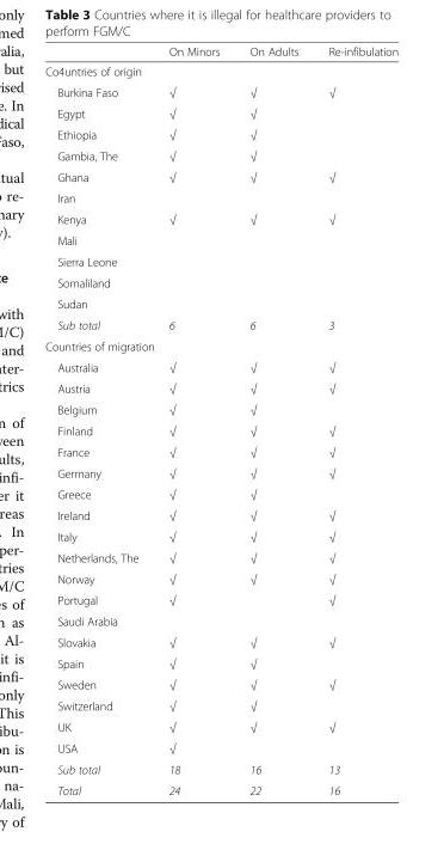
<table><thead><tr><td></td><td>On Minors</td><td>On Adults</td><td>Re-infibulation</td></tr></thead><tbody><tr><td colspan="4">Co4untries of origin</td></tr><tr><td>Burkina Faso</td><td>√</td><td>√</td><td>√</td></tr><tr><td>Egypt</td><td>√</td><td>√</td><td></td></tr><tr><td>Ethiopia</td><td>√</td><td>√</td><td></td></tr><tr><td>Gambia, The</td><td>√</td><td>√</td><td></td></tr><tr><td>Ghana</td><td>√</td><td>√</td><td>√</td></tr><tr><td colspan="4">Iran</td></tr><tr><td>Kenya</td><td>√</td><td>√</td><td>√</td></tr><tr><td colspan="4">Mali</td></tr><tr><td colspan="4">Sierra Leone</td></tr><tr><td colspan="4">Somaliland</td></tr><tr><td colspan="4">Sudan</td></tr><tr><td>Sub total</td><td>6</td><td>6</td><td>3</td></tr><tr><td colspan="4">Countries of migration</td></tr><tr><td>Australia</td><td>√</td><td>√</td><td>√</td></tr><tr><td>Austria</td><td>√</td><td>√</td><td>√</td></tr><tr><td>Belgium</td><td>√</td><td>√</td><td></td></tr><tr><td>Finland</td><td>√</td><td>√</td><td>√</td></tr><tr><td>France</td><td>√</td><td>√</td><td>√</td></tr><tr><td>Germany</td><td>√</td><td>√</td><td>√</td></tr><tr><td>Greece</td><td>√</td><td>√</td><td></td></tr><tr><td>Ireland</td><td>√</td><td>√</td><td>√</td></tr><tr><td>Italy</td><td>√</td><td>√</td><td>√</td></tr><tr><td>Netherlands, The</td><td>√</td><td>√</td><td>√</td></tr><tr><td>Norway</td><td>√</td><td>√</td><td>√</td></tr><tr><td>Portugal</td><td>√</td><td></td><td>√</td></tr><tr><td colspan="4">Saudi Arabia</td></tr><tr><td>Slovakia</td><td>√</td><td>√</td><td>√</td></tr><tr><td>Spain</td><td>√</td><td>√</td><td></td></tr><tr><td>Sweden</td><td>√</td><td>√</td><td>√</td></tr><tr><td>Switzerland</td><td>√</td><td>√</td><td></td></tr><tr><td>UK</td><td>√</td><td>√</td><td>√</td></tr><tr><td>USA</td><td>√</td><td></td><td></td></tr><tr><td>Sub total</td><td>18</td><td>16</td><td>13</td></tr><tr><td>Total</td><td>24</td><td>22</td><td>16</td></tr></tbody></table>